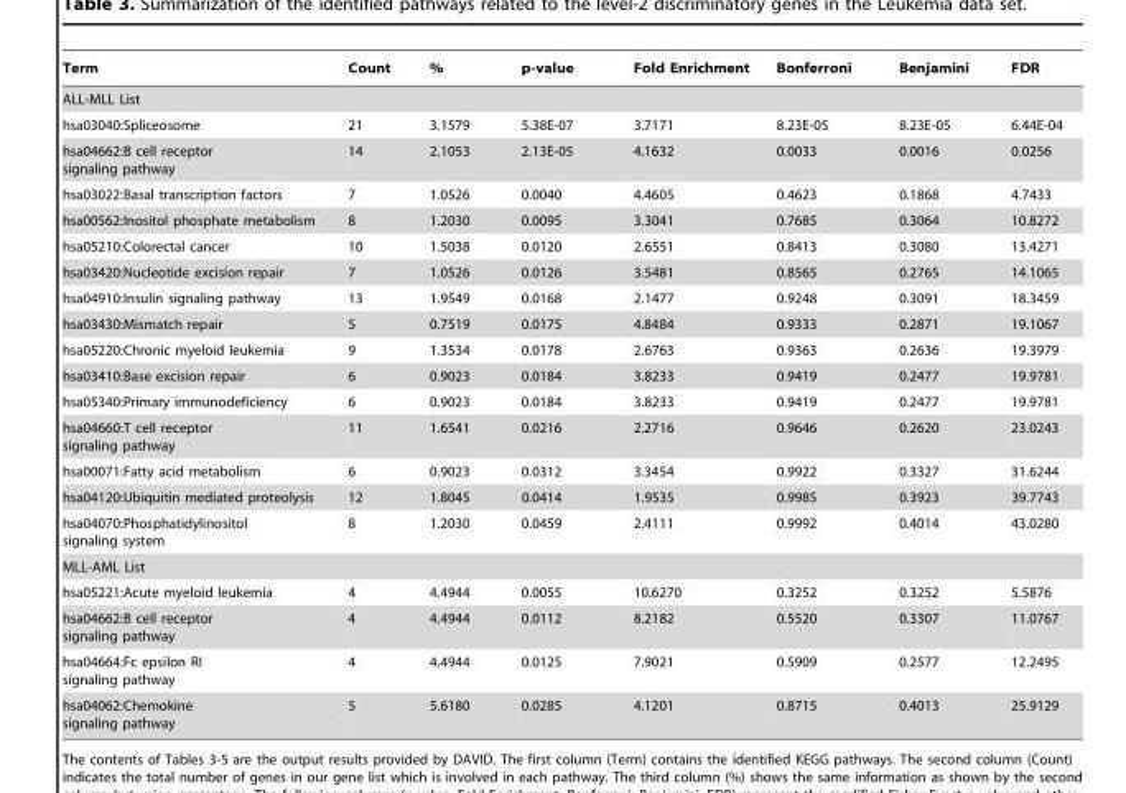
<table><thead><tr><td>Term</td><td>Count</td><td>%</td><td>p-value</td><td>Fold Enrichment</td><td>Bonferroni</td><td>Benjamini</td><td>FDR</td></tr></thead><tbody><tr><td colspan="8">ALL-MLL List</td></tr><tr><td>hsa03040:Spliceosome</td><td>21</td><td>3.1579</td><td>5.38E-07</td><td>3.7171</td><td>8.23E-05</td><td>8.23E-05</td><td>6.44E-04</td></tr><tr><td>hsa04662:B cell receptor signaling pathway</td><td>14</td><td>2.1053</td><td>2.13E-05</td><td>4.1632</td><td>0.0033</td><td>0.0016</td><td>0.0256</td></tr><tr><td>hsa03022:Basal transcription factors</td><td>7</td><td>1.0526</td><td>0.0040</td><td>4.4605</td><td>0.4623</td><td>0.1868</td><td>4.7433</td></tr><tr><td>hsa00562:Inositol phosphate metabolism</td><td>8</td><td>1.2030</td><td>0.0095</td><td>3.3041</td><td>0.7685</td><td>0.3064</td><td>10.8272</td></tr><tr><td>hsa05210:Colorectal cancer</td><td>10</td><td>1.5038</td><td>0.0120</td><td>2.6551</td><td>0.8413</td><td>0.3080</td><td>13.4271</td></tr><tr><td>hsa03420:Nucleotide excision repair</td><td>7</td><td>1.0526</td><td>0.0126</td><td>3.5481</td><td>0.8565</td><td>0.2765</td><td>14.1065</td></tr><tr><td>hsa04910:Insulin signaling pathway</td><td>13</td><td>1.9549</td><td>0.0168</td><td>2.1477</td><td>0.9248</td><td>0.3091</td><td>18.3459</td></tr><tr><td>hsa03430:Mismatch repair</td><td>5</td><td>0.7519</td><td>0.0175</td><td>4.8484</td><td>0.9333</td><td>0.2871</td><td>19.1067</td></tr><tr><td>hsa05220:Chronic myeloid leukemia</td><td>9</td><td>1.3534</td><td>0.0178</td><td>2.6763</td><td>0.9363</td><td>0.2636</td><td>19.3979</td></tr><tr><td>hsa03410:Base excision repair</td><td>6</td><td>0.9023</td><td>0.0184</td><td>3.8233</td><td>0.9419</td><td>0.2477</td><td>19.9781</td></tr><tr><td>hsa05340:Primary immunodeficiency</td><td>6</td><td>0.9023</td><td>0.0184</td><td>3.8233</td><td>0.9419</td><td>0.2477</td><td>19.9781</td></tr><tr><td>hsa04660:T cell receptor signaling pathway</td><td>11</td><td>1.6541</td><td>0.0216</td><td>2.2716</td><td>0.9646</td><td>0.2620</td><td>23.0243</td></tr><tr><td>hsa00071:Fatty acid metabolism</td><td>6</td><td>0.9023</td><td>0.0312</td><td>3.3454</td><td>0.9922</td><td>0.3327</td><td>31.6244</td></tr><tr><td>hsa04120:Ubiquitin mediated proteolysis</td><td>12</td><td>1.8045</td><td>0.0414</td><td>1.9535</td><td>0.9985</td><td>0.3923</td><td>39.7743</td></tr><tr><td>hsa04070:Phosphatidylinositol signaling system</td><td>8</td><td>1.2030</td><td>0.0459</td><td>2.4111</td><td>0.9992</td><td>0.4014</td><td>43.0280</td></tr><tr><td colspan="8">MLL-AML List</td></tr><tr><td>hsa05221:Acute myeloid leukemia</td><td>4</td><td>4.4944</td><td>0.0055</td><td>10.6270</td><td>0.3252</td><td>0.3252</td><td>5.5876</td></tr><tr><td>hsa04662:B cell receptor signaling pathway</td><td>4</td><td>4.4944</td><td>0.0112</td><td>8.2182</td><td>0.5520</td><td>0.3307</td><td>11.0767</td></tr><tr><td>hsa04664:Fc epsilon RI signaling pathway</td><td>4</td><td>4.4944</td><td>0.0125</td><td>7.9021</td><td>0.5909</td><td>0.2577</td><td>12.2495</td></tr><tr><td>hsa04062:Chemokine signaling pathway</td><td>5</td><td>5.6180</td><td>0.0285</td><td>4.1201</td><td>0.8715</td><td>0.4013</td><td>25.9129</td></tr></tbody></table>